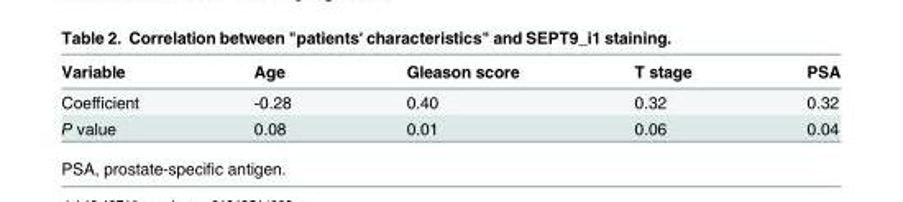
<table><thead><tr><td>Variable</td><td>Age</td><td>Gleason score</td><td>T stage</td><td>PSA</td></tr></thead><tbody><tr><td>Coefficient</td><td>-0.28</td><td>0.40</td><td>0.32</td><td>0.32</td></tr><tr><td>P value</td><td>0.08</td><td>0.01</td><td>0.06</td><td>0.04</td></tr></tbody></table>